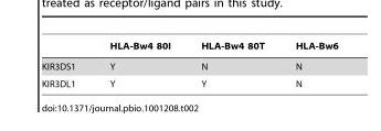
<table><thead><tr><td></td><td>HLA-Bw4 80I</td><td>HLA-Bw4 80T</td><td>HLA-Bw6</td></tr></thead><tbody><tr><td>KIR3DS1</td><td>Y</td><td>N</td><td>N</td></tr><tr><td>KIR3DL1</td><td>Y</td><td>Y</td><td>N</td></tr></tbody></table>